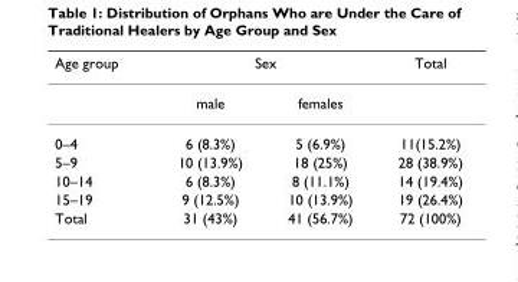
<table><thead><tr><td rowspan="2">Age group</td><td colspan="2">Sex</td><td rowspan="2">Total</td></tr><tr><td>male</td><td>females</td></tr></thead><tbody><tr><td>0–4</td><td>6 (8.3%)</td><td>5 (6.9%)</td><td>11(15.2%)</td></tr><tr><td>5–9</td><td>10 (13.9%)</td><td>18 (25%)</td><td>28 (38.9%)</td></tr><tr><td>10–14</td><td>6 (8.3%)</td><td>8 (11.1%)</td><td>14 (19.4%)</td></tr><tr><td>15–19</td><td>9 (12.5%)</td><td>10 (13.9%)</td><td>19 (26.4%)</td></tr><tr><td>Total</td><td>31 (43%)</td><td>41 (56.7%)</td><td>72 (100%)</td></tr></tbody></table>